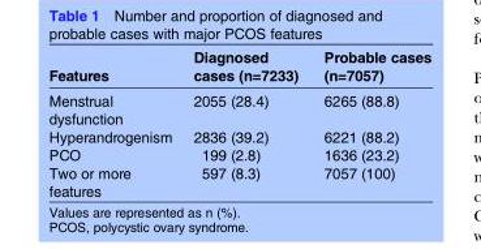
<table><thead><tr><td>Features</td><td>Diagnosed cases (n=7233)</td><td>Probable cases (n=7057)</td></tr></thead><tbody><tr><td>Menstrual dysfunction</td><td>2055 (28.4)</td><td>6265 (88.8)</td></tr><tr><td>Hyperandrogenism</td><td>2836 (39.2)</td><td>6221 (88.2)</td></tr><tr><td>PCO</td><td>199 (2.8)</td><td>1636 (23.2)</td></tr><tr><td>Two or more features</td><td>597 (8.3)</td><td>7057 (100)</td></tr></tbody></table>